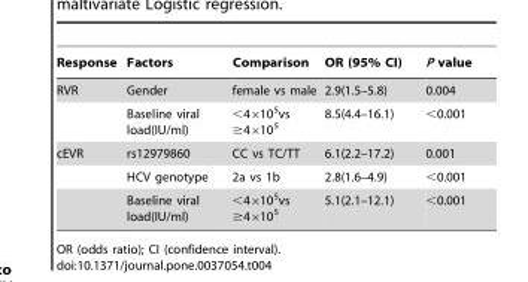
<table><thead><tr><td>Response</td><td>Factors</td><td>Comparison</td><td>OR (95% CI)</td><td>P value</td></tr></thead><tbody><tr><td rowspan="2">RVR</td><td>Gender</td><td>female vs male</td><td>2.9(1.5–5.8)</td><td>0.004</td></tr><tr><td>Baseline viral load(IU/ml)</td><td>&lt;4×10<sup>5</sup>vs ≥4×10<sup>5</sup></td><td>8.5(4.4–16.1)</td><td>&lt;0.001</td></tr><tr><td rowspan="3">cEVR</td><td>rs12979860</td><td>CC vs TC/TT</td><td>6.1(2.2–17.2)</td><td>0.001</td></tr><tr><td>HCV genotype</td><td>2a vs 1b</td><td>2.8(1.6–4.9)</td><td>&lt;0.001</td></tr><tr><td>Baseline viral load(IU/ml)</td><td>&lt;4×10<sup>5</sup>vs ≥4×10<sup>5</sup></td><td>5.1(2.1–12.1)</td><td>&lt;0.001</td></tr></tbody></table>